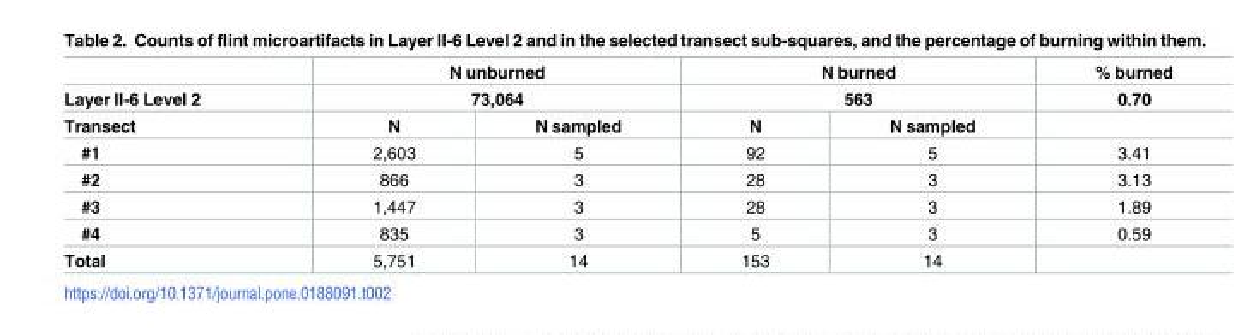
<table><thead><tr><td rowspan="3">Layer II-6 Level 2 Transect</td><td rowspan="2" colspan="2">N unburned 73,064</td><td rowspan="2" colspan="2">N burned 563</td><td rowspan="3">% burned 0.70</td></tr><tr></tr><tr><td>N</td><td>N sampled</td><td>N</td><td>N sampled</td></tr></thead><tbody><tr><td>#1</td><td>2,603</td><td>5</td><td>92</td><td>5</td><td>3.41</td></tr><tr><td>#2</td><td>866</td><td>3</td><td>28</td><td>3</td><td>3.13</td></tr><tr><td>#3</td><td>1,447</td><td>3</td><td>28</td><td>3</td><td>1.89</td></tr><tr><td>#4</td><td>835</td><td>3</td><td>5</td><td>3</td><td>0.59</td></tr><tr><td>Total</td><td>5,751</td><td>14</td><td>153</td><td>14</td><td></td></tr></tbody></table>